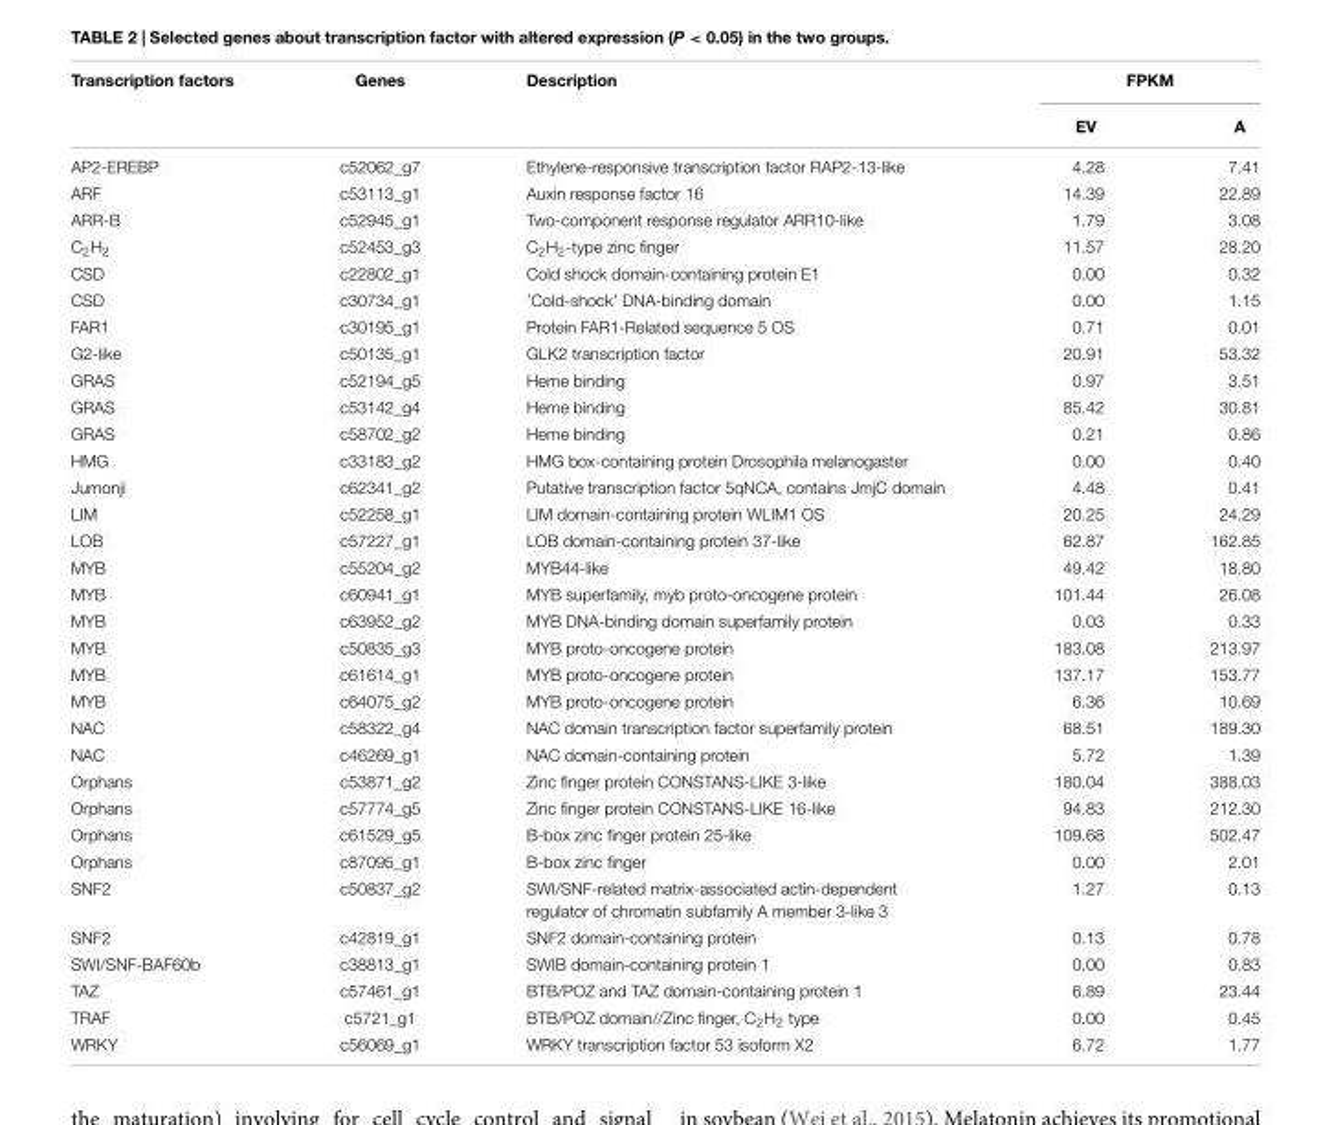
<table><thead><tr><td rowspan="2">Transcription factors</td><td rowspan="2">Genes</td><td rowspan="2">Description</td><td colspan="2">FPKM</td></tr><tr><td>EV</td><td>A</td></tr></thead><tbody><tr><td>AP2-EREBP</td><td>c52062_g7</td><td>Ethylene-responsive transcription factor RAP2-13-like</td><td>4.28</td><td>7.41</td></tr><tr><td>ARF</td><td>c53113_g1</td><td>Auxin response factor 16</td><td>14.39</td><td>22.89</td></tr><tr><td>ARR-B</td><td>c52945_g1</td><td>Two-component response regulator ARR10-like</td><td>1.79</td><td>3.08</td></tr><tr><td>C<sub>2</sub>H<sub>2</sub></td><td>c52453_g3</td><td>C<sub>2</sub>H<sub>2</sub>-type zinc finger</td><td>11.57</td><td>28.20</td></tr><tr><td>CSD</td><td>c22802_g1</td><td>Cold shock domain-containing protein E1</td><td>0.00</td><td>0.32</td></tr><tr><td>CSD</td><td>c30734_g1</td><td>’Cold-shock’ DNA-binding domain</td><td>0.00</td><td>1.15</td></tr><tr><td>FAR1</td><td>c30195_g1</td><td>Protein FAR1-Related sequence 5 OS</td><td>0.71</td><td>0.01</td></tr><tr><td>G2-like</td><td>c50135_g1</td><td>GLK2 transcription factor</td><td>20.91</td><td>53.32</td></tr><tr><td>GRAS</td><td>c52194_g5</td><td>Heme binding</td><td>0.97</td><td>3.51</td></tr><tr><td>GRAS</td><td>c53142_g4</td><td>Heme binding</td><td>85.42</td><td>30.81</td></tr><tr><td>GRAS</td><td>c58702_g2</td><td>Heme binding</td><td>0.21</td><td>0.86</td></tr><tr><td>HMG</td><td>c33183_g2</td><td>HMG box-containing protein Drosophila melanogaster</td><td>0.00</td><td>0.40</td></tr><tr><td>Jumonji</td><td>c62341_g2</td><td>Putative transcription factor 5qNCA, contains JmjC domain</td><td>4.48</td><td>0.41</td></tr><tr><td>LIM</td><td>c52258_g1</td><td>LIM domain-containing protein WLIM1 OS</td><td>20.25</td><td>24.29</td></tr><tr><td>LOB</td><td>c57227_g1</td><td>LOB domain-containing protein 37-like</td><td>62.87</td><td>162.85</td></tr><tr><td>MYB</td><td>c55204_g2</td><td>MYB44-like</td><td>49.42</td><td>18.80</td></tr><tr><td>MYB</td><td>c60941_g1</td><td>MYB superfamily, myb proto-oncogene protein</td><td>101.44</td><td>26.08</td></tr><tr><td>MYB</td><td>c63952_g2</td><td>MYB DNA-binding domain superfamily protein</td><td>0.03</td><td>0.33</td></tr><tr><td>MYB</td><td>c50835_g3</td><td>MYB proto-oncogene protein</td><td>183.08</td><td>213.97</td></tr><tr><td>MYB</td><td>c61614_g1</td><td>MYB proto-oncogene protein</td><td>137.17</td><td>153.77</td></tr><tr><td>MYB</td><td>c64075_g2</td><td>MYB proto-oncogene protein</td><td>6.36</td><td>10.69</td></tr><tr><td>NAC</td><td>c58322_g4</td><td>NAC domain transcription factor superfamily protein</td><td>68.51</td><td>189.30</td></tr><tr><td>NAC</td><td>c46269_g1</td><td>NAC domain-containing protein</td><td>5.72</td><td>1.39</td></tr><tr><td>Orphans</td><td>c53871_g2</td><td>Zinc finger protein CONSTANS-LIKE 3-like</td><td>180.04</td><td>388.03</td></tr><tr><td>Orphans</td><td>c57774_g5</td><td>Zinc finger protein CONSTANS-LIKE 16-like</td><td>94.83</td><td>212.30</td></tr><tr><td>Orphans</td><td>c61529_g5</td><td>B-box zinc finger protein 25-like</td><td>109.68</td><td>502.47</td></tr><tr><td>Orphans</td><td>c87095_g1</td><td>B-box zinc finger</td><td>0.00</td><td>2.01</td></tr><tr><td>SNF2</td><td>c50837_g2</td><td>SWI/SNF-related matrix-associated actin-dependent regulator of chromatin subfamily A member 3-like 3</td><td>1.27</td><td>0.13</td></tr><tr><td>SNF2</td><td>c42819_g1</td><td>SNF2 domain-containing protein</td><td>0.13</td><td>0.78</td></tr><tr><td>SWI/SNF-BAF60b</td><td>c38813_g1</td><td>SWIB domain-containing protein 1</td><td>0.00</td><td>0.83</td></tr><tr><td>TAZ</td><td>c57461_g1</td><td>BTB/POZ and TAZ domain-containing protein 1</td><td>6.89</td><td>23.44</td></tr><tr><td>TRAF</td><td>c5721_g1</td><td>BTB/POZ domain//Zinc finger, C<sub>2</sub>H<sub>2</sub> type</td><td>0.00</td><td>0.45</td></tr><tr><td>WRKY</td><td>c56069_g1</td><td>WRKY transcription factor 53 isoform X2</td><td>6.72</td><td>1.77</td></tr></tbody></table>